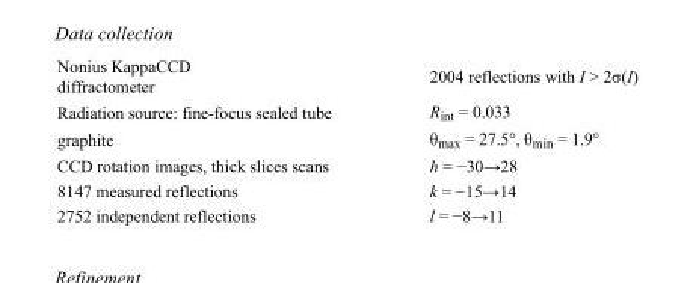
<table><tbody><tr><td>Nonius KappaCCD diffractometer</td><td>2004 reflections with I &gt; 2σ(I)</td></tr><tr><td>Radiation source: fine-focus sealed tube</td><td>R<sub>int</sub> = 0.033</td></tr><tr><td>graphite</td><td>θ<sub>max</sub> = 27.5°, θ<sub>min</sub> = 1.9°</td></tr><tr><td>CCD rotation images, thick slices scans</td><td>h = −30→28</td></tr><tr><td>8147 measured reflections</td><td>k = −15→14</td></tr><tr><td>2752 independent reflections</td><td>l = −8→11</td></tr></tbody></table>